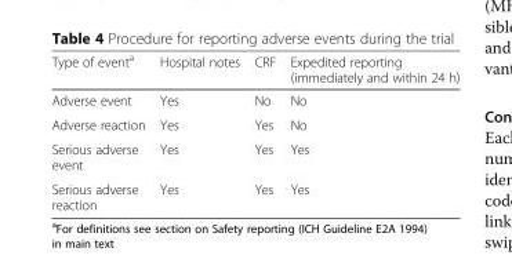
<table><thead><tr><td>Type of event<sup>a</sup></td><td>Hospital notes</td><td>CRF</td><td>Expedited reporting (immediately and within 24 h)</td></tr></thead><tbody><tr><td>Adverse event</td><td>Yes</td><td>No</td><td>No</td></tr><tr><td>Adverse reaction</td><td>Yes</td><td>Yes</td><td>No</td></tr><tr><td>Serious adverse event</td><td>Yes</td><td>Yes</td><td>Yes</td></tr><tr><td>Serious adverse reaction</td><td>Yes</td><td>Yes</td><td>Yes</td></tr></tbody></table>